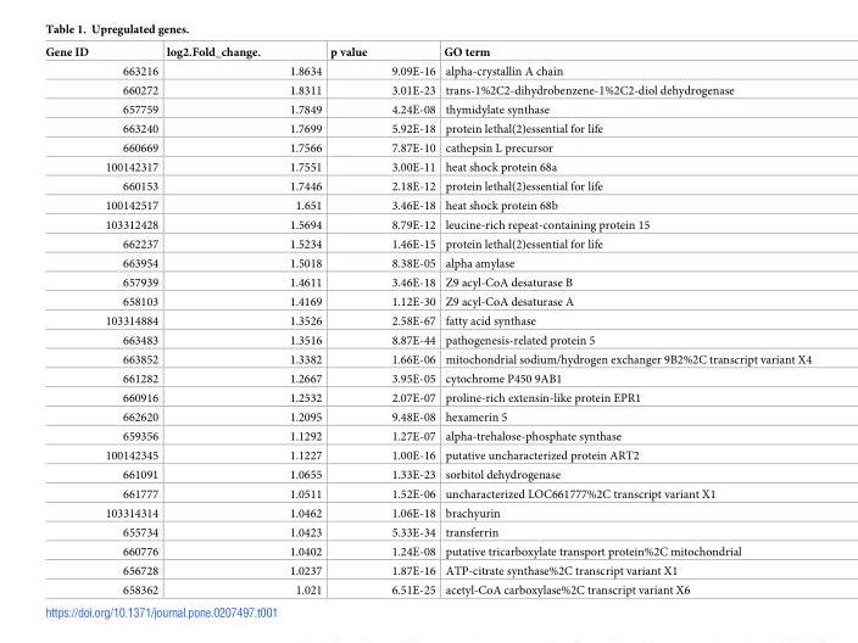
<table><thead><tr><td>Gene ID</td><td>log2.Fold_change.</td><td>p value</td><td>GO term</td></tr></thead><tbody><tr><td>663216</td><td>1.8634</td><td>9.09E-16</td><td>alpha-crystallin A chain</td></tr><tr><td>660272</td><td>1.8311</td><td>3.01E-23</td><td>trans-1%2C2-dihydrobenzene-1%2C2-diol dehydrogenase</td></tr><tr><td>657759</td><td>1.7849</td><td>4.24E-08</td><td>thymidylate synthase</td></tr><tr><td>663240</td><td>1.7699</td><td>5.92E-18</td><td>protein lethal(2)essential for life</td></tr><tr><td>660669</td><td>1.7566</td><td>7.87E-10</td><td>cathepsin L precursor</td></tr><tr><td>100142317</td><td>1.7551</td><td>3.00E-11</td><td>heat shock protein 68a</td></tr><tr><td>660153</td><td>1.7446</td><td>2.18E-12</td><td>protein lethal(2)essential for life</td></tr><tr><td>100142517</td><td>1.651</td><td>3.46E-18</td><td>heat shock protein 68b</td></tr><tr><td>103312428</td><td>1.5694</td><td>8.79E-12</td><td>leucine-rich repeat-containing protein 15</td></tr><tr><td>662237</td><td>1.5234</td><td>1.46E-15</td><td>protein lethal(2)essential for life</td></tr><tr><td>663954</td><td>1.5018</td><td>8.38E-05</td><td>alpha amylase</td></tr><tr><td>657939</td><td>1.4611</td><td>3.46E-18</td><td>Z9 acyl-CoA desaturase B</td></tr><tr><td>658103</td><td>1.4169</td><td>1.12E-30</td><td>Z9 acyl-CoA desaturase A</td></tr><tr><td>103314884</td><td>1.3526</td><td>2.58E-67</td><td>fatty acid synthase</td></tr><tr><td>663483</td><td>1.3516</td><td>8.87E-44</td><td>pathogenesis-related protein 5</td></tr><tr><td>663852</td><td>1.3382</td><td>1.66E-06</td><td>mitochondrial sodium/hydrogen exchanger 9B2%2C transcript variant X4</td></tr><tr><td>661282</td><td>1.2667</td><td>3.95E-05</td><td>cytochrome P450 9AB1</td></tr><tr><td>660916</td><td>1.2532</td><td>2.07E-07</td><td>proline-rich extensin-like protein EPR1</td></tr><tr><td>662620</td><td>1.2095</td><td>9.48E-08</td><td>hexamerin 5</td></tr><tr><td>659356</td><td>1.1292</td><td>1.27E-07</td><td>alpha-trehalose-phosphate synthase</td></tr><tr><td>100142345</td><td>1.1227</td><td>1.00E-16</td><td>putative uncharacterized protein ART2</td></tr><tr><td>661091</td><td>1.0655</td><td>1.33E-23</td><td>sorbitol dehydrogenase</td></tr><tr><td>661777</td><td>1.0511</td><td>1.52E-06</td><td>uncharacterized LOC661777%2C transcript variant X1</td></tr><tr><td>103314314</td><td>1.0462</td><td>1.06E-18</td><td>brachyurin</td></tr><tr><td>655734</td><td>1.0423</td><td>5.33E-34</td><td>transferrin</td></tr><tr><td>660776</td><td>1.0402</td><td>1.24E-08</td><td>putative tricarboxylate transport protein%2C mitochondrial</td></tr><tr><td>656728</td><td>1.0237</td><td>1.87E-16</td><td>ATP-citrate synthase%2C transcript variant X1</td></tr><tr><td>658362</td><td>1.021</td><td>6.51E-25</td><td>acetyl-CoA carboxylase%2C transcript variant X6</td></tr></tbody></table>